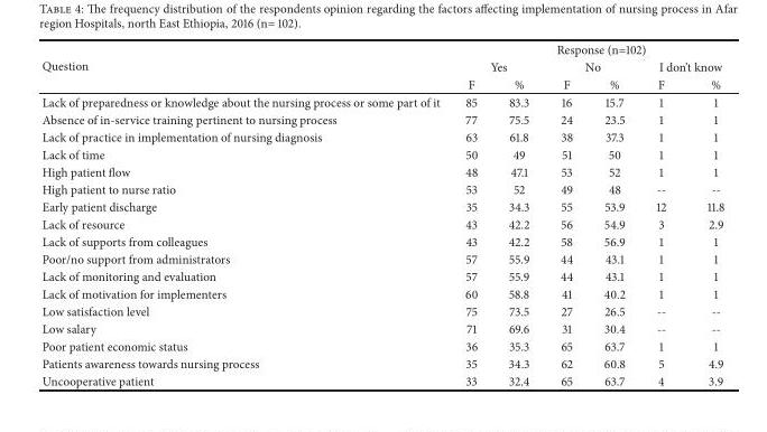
<table><thead><tr><td rowspan="3">Question</td><td colspan="6">Response (n=102)</td></tr><tr><td colspan="2">Yes</td><td colspan="2">No</td><td colspan="2">I don’t know</td></tr><tr><td>F</td><td>%</td><td>F</td><td>%</td><td>F</td><td>%</td></tr></thead><tbody><tr><td>Lack of preparedness or knowledge about the nursing process or some part of it</td><td>85</td><td>83.3</td><td>16</td><td>15.7</td><td>1</td><td>1</td></tr><tr><td>Absence of in-service training pertinent to nursing process</td><td>77</td><td>75.5</td><td>24</td><td>23.5</td><td>1</td><td>1</td></tr><tr><td>Lack of practice in implementation of nursing diagnosis</td><td>63</td><td>61.8</td><td>38</td><td>37.3</td><td>1</td><td>1</td></tr><tr><td>Lack of time</td><td>50</td><td>49</td><td>51</td><td>50</td><td>1</td><td>1</td></tr><tr><td>High patient flow</td><td>48</td><td>47.1</td><td>53</td><td>52</td><td>1</td><td>1</td></tr><tr><td>High patient to nurse ratio</td><td>53</td><td>52</td><td>49</td><td>48</td><td>--</td><td>--</td></tr><tr><td>Early patient discharge</td><td>35</td><td>34.3</td><td>55</td><td>53.9</td><td>12</td><td>11.8</td></tr><tr><td>Lack of resource</td><td>43</td><td>42.2</td><td>56</td><td>54.9</td><td>3</td><td>2.9</td></tr><tr><td>Lack of supports from colleagues</td><td>43</td><td>42.2</td><td>58</td><td>56.9</td><td>1</td><td>1</td></tr><tr><td>Poor/no support from administrators</td><td>57</td><td>55.9</td><td>44</td><td>43.1</td><td>1</td><td>1</td></tr><tr><td>Lack of monitoring and evaluation</td><td>57</td><td>55.9</td><td>44</td><td>43.1</td><td>1</td><td>1</td></tr><tr><td>Lack of motivation for implementers</td><td>60</td><td>58.8</td><td>41</td><td>40.2</td><td>1</td><td>1</td></tr><tr><td>Low satisfaction level</td><td>75</td><td>73.5</td><td>27</td><td>26.5</td><td>--</td><td>--</td></tr><tr><td>Low salary</td><td>71</td><td>69.6</td><td>31</td><td>30.4</td><td>--</td><td>--</td></tr><tr><td>Poor patient economic status</td><td>36</td><td>35.3</td><td>65</td><td>63.7</td><td>1</td><td>1</td></tr><tr><td>Patients awareness towards nursing process</td><td>35</td><td>34.3</td><td>62</td><td>60.8</td><td>5</td><td>4.9</td></tr><tr><td>Uncooperative patient</td><td>33</td><td>32.4</td><td>65</td><td>63.7</td><td>4</td><td>3.9</td></tr></tbody></table>